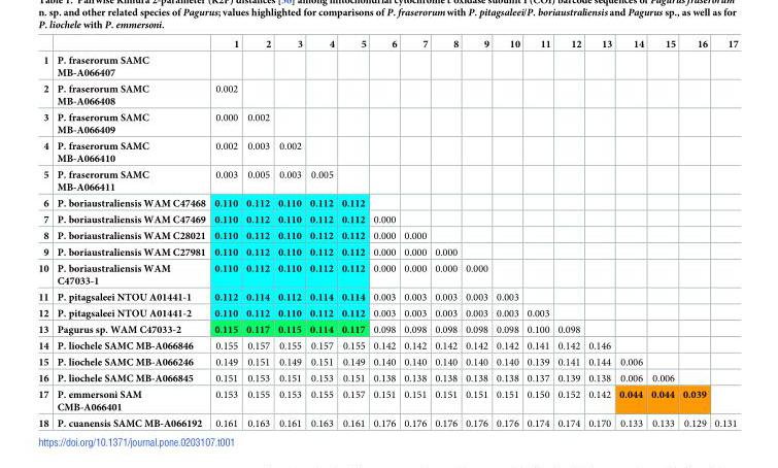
<table><thead><tr><td></td><td></td><td>1</td><td>2</td><td>3</td><td>4</td><td>5</td><td>6</td><td>7</td><td>8</td><td>9</td><td>10</td><td>11</td><td>12</td><td>13</td><td>14</td><td>15</td><td>16</td><td>17</td></tr></thead><tbody><tr><td>1</td><td>P. fraserorum SAMC MB-A066407</td><td></td><td></td><td></td><td></td><td></td><td></td><td></td><td></td><td></td><td></td><td></td><td></td><td></td><td></td><td></td><td></td><td></td></tr><tr><td>2</td><td>P. fraserorum SAMC MB-A066408</td><td>0.002</td><td></td><td></td><td></td><td></td><td></td><td></td><td></td><td></td><td></td><td></td><td></td><td></td><td></td><td></td><td></td><td></td></tr><tr><td>3</td><td>P. fraserorum SAMC MB-A066409</td><td>0.000</td><td>0.002</td><td></td><td></td><td></td><td></td><td></td><td></td><td></td><td></td><td></td><td></td><td></td><td></td><td></td><td></td><td></td></tr><tr><td>4</td><td>P. fraserorum SAMC MB-A066410</td><td>0.002</td><td>0.003</td><td>0.002</td><td></td><td></td><td></td><td></td><td></td><td></td><td></td><td></td><td></td><td></td><td></td><td></td><td></td><td></td></tr><tr><td>5</td><td>P. fraserorum SAMC MB-A066411</td><td>0.003</td><td>0.005</td><td>0.003</td><td>0.005</td><td></td><td></td><td></td><td></td><td></td><td></td><td></td><td></td><td></td><td></td><td></td><td></td><td></td></tr><tr><td>6</td><td>P. boriaustraliensis WAM C47468</td><td>0.110</td><td>0.112</td><td>0.110</td><td>0.112</td><td>0.112</td><td></td><td></td><td></td><td></td><td></td><td></td><td></td><td></td><td></td><td></td><td></td><td></td></tr><tr><td>7</td><td>P. boriaustraliensis WAM C47469</td><td>0.110</td><td>0.112</td><td>0.110</td><td>0.112</td><td>0.112</td><td>0.000</td><td></td><td></td><td></td><td></td><td></td><td></td><td></td><td></td><td></td><td></td><td></td></tr><tr><td>8</td><td>P. boriaustraliensis WAM C28021</td><td>0.110</td><td>0.112</td><td>0.110</td><td>0.112</td><td>0.112</td><td>0.000</td><td>0.000</td><td></td><td></td><td></td><td></td><td></td><td></td><td></td><td></td><td></td><td></td></tr><tr><td>9</td><td>P. boriaustraliensis WAM C27981</td><td>0.110</td><td>0.112</td><td>0.110</td><td>0.112</td><td>0.112</td><td>0.000</td><td>0.000</td><td>0.000</td><td></td><td></td><td></td><td></td><td></td><td></td><td></td><td></td><td></td></tr><tr><td>10</td><td>P. boriaustraliensis WAM C47033-1</td><td>0.110</td><td>0.112</td><td>0.110</td><td>0.112</td><td>0.112</td><td>0.000</td><td>0.000</td><td>0.000</td><td>0.000</td><td></td><td></td><td></td><td></td><td></td><td></td><td></td><td></td></tr><tr><td>11</td><td>P. pitagsaleei NTOU A01441-1</td><td>0.112</td><td>0.114</td><td>0.112</td><td>0.114</td><td>0.114</td><td>0.003</td><td>0.003</td><td>0.003</td><td>0.003</td><td>0.003</td><td></td><td></td><td></td><td></td><td></td><td></td><td></td></tr><tr><td>12</td><td>P. pitagsaleei NTOU A01441-2</td><td>0.110</td><td>0.112</td><td>0.110</td><td>0.112</td><td>0.112</td><td>0.003</td><td>0.003</td><td>0.003</td><td>0.003</td><td>0.003</td><td>0.003</td><td></td><td></td><td></td><td></td><td></td><td></td></tr><tr><td>13</td><td>Pagurus sp. WAM C47033-2</td><td>0.115</td><td>0.117</td><td>0.115</td><td>0.114</td><td>0.117</td><td>0.098</td><td>0.098</td><td>0.098</td><td>0.098</td><td>0.098</td><td>0.100</td><td>0.098</td><td></td><td></td><td></td><td></td><td></td></tr><tr><td>14</td><td>P. liochele SAMC MB-A066846</td><td>0.155</td><td>0.157</td><td>0.155</td><td>0.157</td><td>0.155</td><td>0.142</td><td>0.142</td><td>0.142</td><td>0.142</td><td>0.142</td><td>0.141</td><td>0.142</td><td>0.146</td><td></td><td></td><td></td><td></td></tr><tr><td>15</td><td>P. liochele SAMC MB-A066246</td><td>0.149</td><td>0.151</td><td>0.149</td><td>0.151</td><td>0.149</td><td>0.140</td><td>0.140</td><td>0.140</td><td>0.140</td><td>0.140</td><td>0.139</td><td>0.141</td><td>0.144</td><td>0.006</td><td></td><td></td><td></td></tr><tr><td>16</td><td>P. liochele SAMC MB-A066845</td><td>0.151</td><td>0.153</td><td>0.151</td><td>0.153</td><td>0.151</td><td>0.138</td><td>0.138</td><td>0.138</td><td>0.138</td><td>0.138</td><td>0.137</td><td>0.139</td><td>0.138</td><td>0.006</td><td>0.006</td><td></td><td></td></tr><tr><td>17</td><td>P. emmersoni SAM CMB-A066401</td><td>0.153</td><td>0.155</td><td>0.153</td><td>0.155</td><td>0.157</td><td>0.151</td><td>0.151</td><td>0.151</td><td>0.151</td><td>0.151</td><td>0.150</td><td>0.152</td><td>0.142</td><td>0.044</td><td>0.044</td><td>0.039</td><td></td></tr><tr><td>18</td><td>P. cuanensis SAMC MB-A066192</td><td>0.161</td><td>0.163</td><td>0.161</td><td>0.163</td><td>0.161</td><td>0.176</td><td>0.176</td><td>0.176</td><td>0.176</td><td>0.176</td><td>0.174</td><td>0.174</td><td>0.170</td><td>0.133</td><td>0.133</td><td>0.129</td><td>0.131</td></tr></tbody></table>